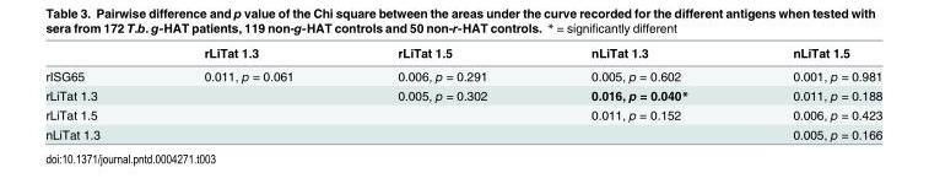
<table><thead><tr><td></td><td>rLiTat 1.3</td><td>rLiTat 1.5</td><td>nLiTat 1.3</td><td>nLiTat 1.5</td></tr></thead><tbody><tr><td>rISG65</td><td>0.011, p = 0.061</td><td>0.006, p = 0.291</td><td>0.005, p = 0.602</td><td>0.001, p = 0.981</td></tr><tr><td>rLiTat 1.3</td><td></td><td>0.005, p = 0.302</td><td>0.016, p = 0.040*</td><td>0.011, p = 0.188</td></tr><tr><td>rLiTat 1.5</td><td></td><td></td><td>0.011, p = 0.152</td><td>0.006, p = 0.423</td></tr><tr><td>nLiTat 1.3</td><td></td><td></td><td></td><td>0.005, p = 0.166</td></tr></tbody></table>